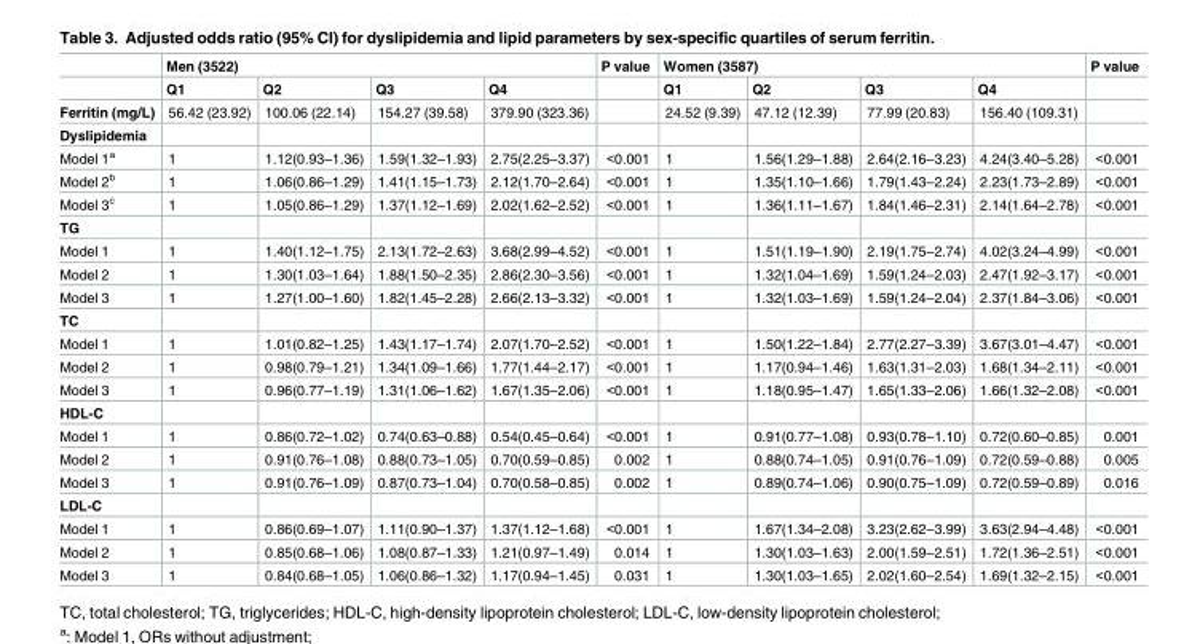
<table><thead><tr><td rowspan="2"></td><td colspan="4">Men (3522)</td><td rowspan="2">P value</td><td colspan="4">Women (3587)</td><td rowspan="2">P value</td></tr><tr><td>Q1</td><td>Q2</td><td>Q3</td><td>Q4</td><td>Q1</td><td>Q2</td><td>Q3</td><td>Q4</td></tr></thead><tbody><tr><td>Ferritin (mg/L)</td><td>56.42 (23.92)</td><td>100.06 (22.14)</td><td>154.27 (39.58)</td><td>379.90 (323.36)</td><td></td><td>24.52 (9.39)</td><td>47.12 (12.39)</td><td>77.99 (20.83)</td><td>156.40 (109.31)</td><td></td></tr><tr><td colspan="11">Dyslipidemia</td></tr><tr><td>Model 1<sup>a</sup></td><td>1</td><td>1.12(0.93–1.36)</td><td>1.59(1.32–1.93)</td><td>2.75(2.25–3.37)</td><td>&lt;0.001</td><td>1</td><td>1.56(1.29–1.88)</td><td>2.64(2.16–3.23)</td><td>4.24(3.40–5.28)</td><td>&lt;0.001</td></tr><tr><td>Model 2<sup>b</sup></td><td>1</td><td>1.06(0.86–1.29)</td><td>1.41(1.15–1.73)</td><td>2.12(1.70–2.64)</td><td>&lt;0.001</td><td>1</td><td>1.35(1.10–1.66)</td><td>1.79(1.43–2.24)</td><td>2.23(1.73–2.89)</td><td>&lt;0.001</td></tr><tr><td>Model 3<sup>c</sup></td><td>1</td><td>1.05(0.86–1.29)</td><td>1.37(1.12–1.69)</td><td>2.02(1.62–2.52)</td><td>&lt;0.001</td><td>1</td><td>1.36(1.11–1.67)</td><td>1.84(1.46–2.31)</td><td>2.14(1.64–2.78)</td><td>&lt;0.001</td></tr><tr><td colspan="11">TG</td></tr><tr><td>Model 1</td><td>1</td><td>1.40(1.12–1.75)</td><td>2.13(1.72–2.63)</td><td>3.68(2.99–4.52)</td><td>&lt;0.001</td><td>1</td><td>1.51(1.19–1.90)</td><td>2.19(1.75–2.74)</td><td>4.02(3.24–4.99)</td><td>&lt;0.001</td></tr><tr><td>Model 2</td><td>1</td><td>1.30(1.03–1.64)</td><td>1.88(1.50–2.35)</td><td>2.86(2.30–3.56)</td><td>&lt;0.001</td><td>1</td><td>1.32(1.04–1.69)</td><td>1.59(1.24–2.03)</td><td>2.47(1.92–3.17)</td><td>&lt;0.001</td></tr><tr><td>Model 3</td><td>1</td><td>1.27(1.00–1.60)</td><td>1.82(1.45–2.28)</td><td>2.66(2.13–3.32)</td><td>&lt;0.001</td><td>1</td><td>1.32(1.03–1.69)</td><td>1.59(1.24–2.04)</td><td>2.37(1.84–3.06)</td><td>&lt;0.001</td></tr><tr><td colspan="11">TC</td></tr><tr><td>Model 1</td><td>1</td><td>1.01(0.82–1.25)</td><td>1.43(1.17–1.74)</td><td>2.07(1.70–2.52)</td><td>&lt;0.001</td><td>1</td><td>1.50(1.22–1.84)</td><td>2.77(2.27–3.39)</td><td>3.67(3.01–4.47)</td><td>&lt;0.001</td></tr><tr><td>Model 2</td><td>1</td><td>0.98(0.79–1.21)</td><td>1.34(1.09–1.66)</td><td>1.77(1.44–2.17)</td><td>&lt;0.001</td><td>1</td><td>1.17(0.94–1.46)</td><td>1.63(1.31–2.03)</td><td>1.68(1.34–2.11)</td><td>&lt;0.001</td></tr><tr><td>Model 3</td><td>1</td><td>0.96(0.77–1.19)</td><td>1.31(1.06–1.62)</td><td>1.67(1.35–2.06)</td><td>&lt;0.001</td><td>1</td><td>1.18(0.95–1.47)</td><td>1.65(1.33–2.06)</td><td>1.66(1.32–2.08)</td><td>&lt;0.001</td></tr><tr><td colspan="11">HDL-C</td></tr><tr><td>Model 1</td><td>1</td><td>0.86(0.72–1.02)</td><td>0.74(0.63–0.88)</td><td>0.54(0.45–0.64)</td><td>&lt;0.001</td><td>1</td><td>0.91(0.77–1.08)</td><td>0.93(0.78–1.10)</td><td>0.72(0.60–0.85)</td><td>0.001</td></tr><tr><td>Model 2</td><td>1</td><td>0.91(0.76–1.08)</td><td>0.88(0.73–1.05)</td><td>0.70(0.59–0.85)</td><td>0.002</td><td>1</td><td>0.88(0.74–1.05)</td><td>0.91(0.76–1.09)</td><td>0.72(0.59–0.88)</td><td>0.005</td></tr><tr><td>Model 3</td><td>1</td><td>0.91(0.76–1.09)</td><td>0.87(0.73–1.04)</td><td>0.70(0.58–0.85)</td><td>0.002</td><td>1</td><td>0.89(0.74–1.06)</td><td>0.90(0.75–1.09)</td><td>0.72(0.59–0.89)</td><td>0.016</td></tr><tr><td colspan="11">LDL-C</td></tr><tr><td>Model 1</td><td>1</td><td>0.86(0.69–1.07)</td><td>1.11(0.90–1.37)</td><td>1.37(1.12–1.68)</td><td>&lt;0.001</td><td>1</td><td>1.67(1.34–2.08)</td><td>3.23(2.62–3.99)</td><td>3.63(2.94–4.48)</td><td>&lt;0.001</td></tr><tr><td>Model 2</td><td>1</td><td>0.85(0.68–1.06)</td><td>1.08(0.87–1.33)</td><td>1.21(0.97–1.49)</td><td>0.014</td><td>1</td><td>1.30(1.03–1.63)</td><td>2.00(1.59–2.51)</td><td>1.72(1.36–2.51)</td><td>&lt;0.001</td></tr><tr><td>Model 3</td><td>1</td><td>0.84(0.68–1.05)</td><td>1.06(0.86–1.32)</td><td>1.17(0.94–1.45)</td><td>0.031</td><td>1</td><td>1.30(1.03–1.65)</td><td>2.02(1.60–2.54)</td><td>1.69(1.32–2.15)</td><td>&lt;0.001</td></tr></tbody></table>